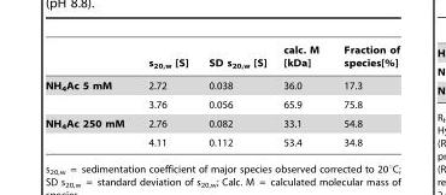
<table><thead><tr><td></td><td>s<sub>20,w</sub> [S]</td><td>SD s<sub>20,w</sub> [S]</td><td>calc. M [kDa]</td><td>Fraction of species[%]</td></tr></thead><tbody><tr><td rowspan="2">NH<sub>4</sub>Ac 5 mM</td><td>2.72</td><td>0.038</td><td>36.0</td><td>17.3</td></tr><tr><td>3.76</td><td>0.056</td><td>65.9</td><td>75.8</td></tr><tr><td rowspan="2">NH<sub>4</sub>Ac 250 mM</td><td>2.76</td><td>0.082</td><td>33.1</td><td>54.8</td></tr><tr><td>4.11</td><td>0.112</td><td>53.4</td><td>34.8</td></tr></tbody></table>